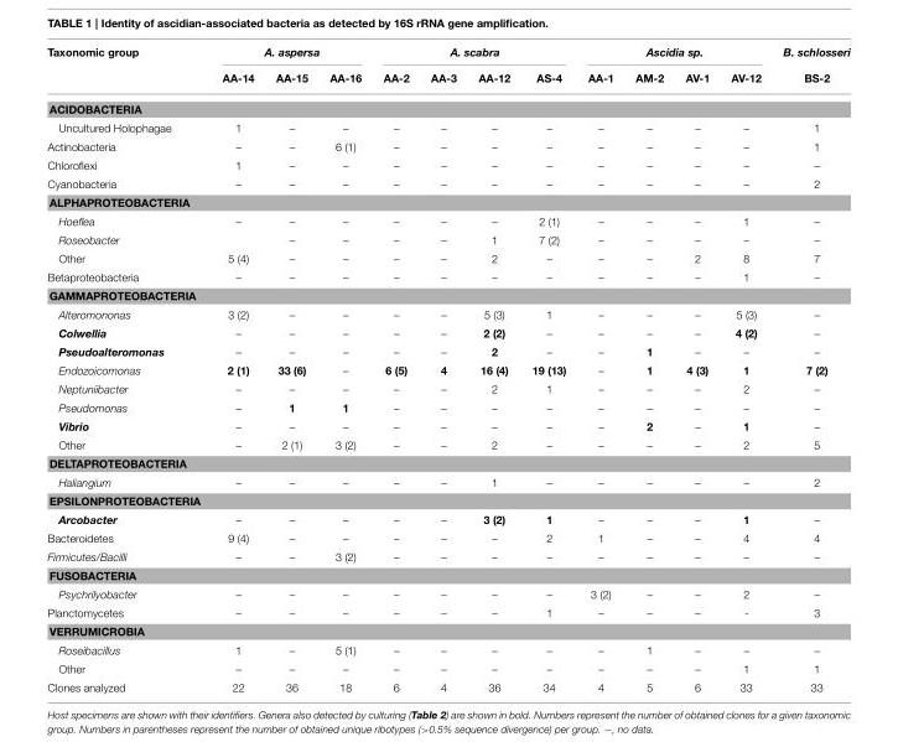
<table><thead><tr><td rowspan="2">Taxonomic group</td><td colspan="3">A. aspersa</td><td colspan="4">A. scabra</td><td colspan="4">Ascidia sp.</td><td rowspan="2">B. schlosseri BS-2</td></tr><tr><td>AA-14</td><td>AA-15</td><td>AA-16</td><td>AA-2</td><td>AA-3</td><td>AA-12</td><td>AS-4</td><td>AA-1</td><td>AM-2</td><td>AV-1</td><td>AV-12</td></tr></thead><tbody><tr><td colspan="13">ACIDOBACTERIA</td></tr><tr><td>Uncultured Holophagae</td><td>1</td><td>–</td><td>–</td><td>–</td><td>–</td><td>–</td><td>–</td><td>–</td><td>–</td><td>–</td><td>–</td><td>1</td></tr><tr><td>Actinobacteria</td><td>–</td><td>–</td><td>6 (1)</td><td>–</td><td>–</td><td>–</td><td>–</td><td>–</td><td>–</td><td>–</td><td>–</td><td>1</td></tr><tr><td>Chloroflexi</td><td>1</td><td>–</td><td>–</td><td>–</td><td>–</td><td>–</td><td>–</td><td>–</td><td>–</td><td>–</td><td>–</td><td>–</td></tr><tr><td>Cyanobacteria</td><td>–</td><td>–</td><td>–</td><td>–</td><td>–</td><td>–</td><td>–</td><td>–</td><td>–</td><td>–</td><td>–</td><td>2</td></tr><tr><td colspan="13">ALPHAPROTEOBACTERIA</td></tr><tr><td>Hoeflea</td><td>–</td><td>–</td><td>–</td><td>–</td><td>–</td><td>–</td><td>2 (1)</td><td>–</td><td>–</td><td>–</td><td>1</td><td>–</td></tr><tr><td>Roseobacter</td><td></td><td>–</td><td>–</td><td>–</td><td>–</td><td>1</td><td>7 (2)</td><td>–</td><td>–</td><td>–</td><td>–</td><td>–</td></tr><tr><td>Other</td><td>5 (4)</td><td>–</td><td>–</td><td>–</td><td>–</td><td>2</td><td>–</td><td>–</td><td>–</td><td>2</td><td>8</td><td>7</td></tr><tr><td>Betaproteobacteria</td><td>–</td><td>–</td><td>–</td><td>–</td><td>–</td><td>–</td><td>–</td><td>–</td><td>–</td><td>–</td><td>1</td><td>–</td></tr><tr><td colspan="13">GAMMAPROTEOBACTERIA</td></tr><tr><td>Alteromononas</td><td>3 (2)</td><td>–</td><td>–</td><td>–</td><td>–</td><td>5 (3)</td><td>1</td><td>–</td><td>–</td><td>–</td><td>5 (3)</td><td>–</td></tr><tr><td>Colwellia</td><td>–</td><td>–</td><td>–</td><td>–</td><td>–</td><td>2 (2)</td><td>–</td><td>–</td><td>–</td><td>–</td><td>4 (2)</td><td>–</td></tr><tr><td>Pseudoalteromonas</td><td>–</td><td>–</td><td>–</td><td>–</td><td>–</td><td>2</td><td>–</td><td>–</td><td>1</td><td>–</td><td>–</td><td>–</td></tr><tr><td>Endozoicomonas</td><td>2 (1)</td><td>33 (6)</td><td>–</td><td>6 (5)</td><td>4</td><td>16 (4)</td><td>19 (13)</td><td>–</td><td>1</td><td>4 (3)</td><td>1</td><td>7 (2)</td></tr><tr><td>Neptuniibacter</td><td>–</td><td>–</td><td>–</td><td>–</td><td>–</td><td>2</td><td>1</td><td>–</td><td>–</td><td>–</td><td>2</td><td>–</td></tr><tr><td>Pseudomonas</td><td>–</td><td>1</td><td>1</td><td>–</td><td>–</td><td>–</td><td>–</td><td>–</td><td>–</td><td>–</td><td>–</td><td>–</td></tr><tr><td>Vibrio</td><td>–</td><td>–</td><td>–</td><td>–</td><td>–</td><td>–</td><td>–</td><td>–</td><td>2</td><td>–</td><td>1</td><td>–</td></tr><tr><td>Other</td><td>–</td><td>2 (1)</td><td>3 (2)</td><td>–</td><td>–</td><td>2</td><td>–</td><td>–</td><td>–</td><td>–</td><td>2</td><td>5</td></tr><tr><td colspan="13">DELTAPROTEOBACTERIA</td></tr><tr><td>Haliangium</td><td>–</td><td>–</td><td>–</td><td>–</td><td>–</td><td>1</td><td>–</td><td>–</td><td>–</td><td>–</td><td>–</td><td>2</td></tr><tr><td colspan="13">EPSILONPROTEOBACTERIA</td></tr><tr><td>Arcobacter</td><td>–</td><td>–</td><td>–</td><td>–</td><td>–</td><td>3 (2)</td><td>1</td><td>–</td><td>–</td><td>–</td><td>1</td><td>–</td></tr><tr><td>Bacteroidetes</td><td>9 (4)</td><td>–</td><td>–</td><td>–</td><td>–</td><td>–</td><td>2</td><td>1</td><td>–</td><td>–</td><td>4</td><td>4</td></tr><tr><td>Firmicutes/Bacilli</td><td>–</td><td>–</td><td>3 (2)</td><td>–</td><td>–</td><td>–</td><td>–</td><td>–</td><td>–</td><td>–</td><td>–</td><td>–</td></tr><tr><td colspan="13">FUSOBACTERIA</td></tr><tr><td>Psychrilyobacter</td><td>–</td><td>–</td><td>–</td><td>–</td><td>–</td><td>–</td><td>–</td><td>3 (2)</td><td>–</td><td>–</td><td>2</td><td>–</td></tr><tr><td>Planctomycetes</td><td>–</td><td>–</td><td>–</td><td>–</td><td>–</td><td>–</td><td>1</td><td>–</td><td>–</td><td>–</td><td>-</td><td>3</td></tr><tr><td colspan="13">VERRUMICROBIA</td></tr><tr><td>Roseibacillus</td><td>1</td><td>–</td><td>5 (1)</td><td>–</td><td>–</td><td>–</td><td>–</td><td>–</td><td>1</td><td>–</td><td>–</td><td>–</td></tr><tr><td>Other</td><td>–</td><td>–</td><td>–</td><td>–</td><td>–</td><td>–</td><td>–</td><td>–</td><td>–</td><td>–</td><td>1</td><td>1</td></tr><tr><td>Clones analyzed</td><td>22</td><td>36</td><td>18</td><td>6</td><td>4</td><td>36</td><td>34</td><td>4</td><td>5</td><td>6</td><td>33</td><td>33</td></tr></tbody></table>